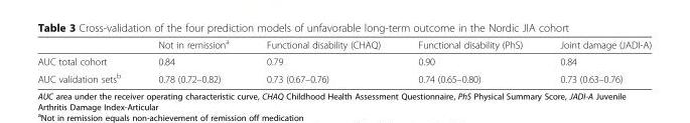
<table><thead><tr><td></td><td>Not in remission<sup>a</sup></td><td>Functional disability (CHAQ)</td><td>Functional disability (PhS)</td><td>Joint damage (JADI-A)</td></tr></thead><tbody><tr><td>AUC total cohort</td><td>0.84</td><td>0.79</td><td>0.90</td><td>0.84</td></tr><tr><td>AUC validation sets<sup>b</sup></td><td>0.78 (0.72–0.82)</td><td>0.73 (0.67–0.76)</td><td>0.74 (0.65–0.80)</td><td>0.73 (0.63–0.76)</td></tr></tbody></table>